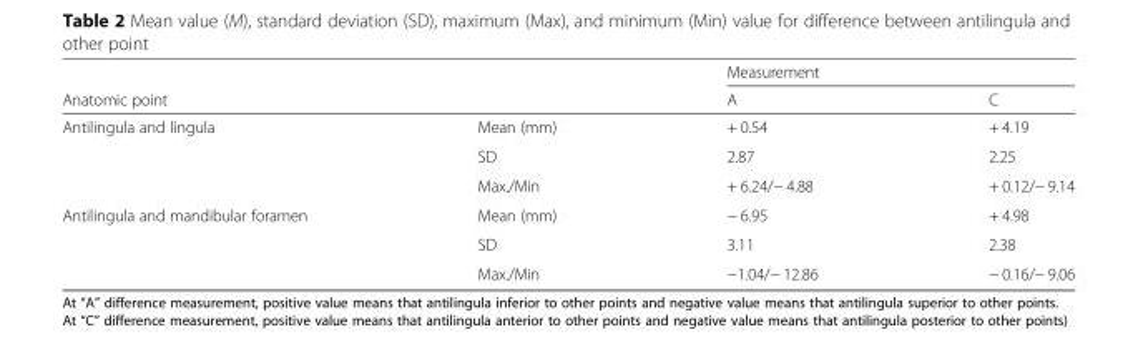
<table><thead><tr><td></td><td></td><td colspan="2">Measurement</td></tr><tr><td colspan="2">Anatomic point</td><td>A</td><td>C</td></tr></thead><tbody><tr><td rowspan="3">Antilingula and lingula</td><td>Mean (mm)</td><td>+ 0.54</td><td>+ 4.19</td></tr><tr><td>SD</td><td>2.87</td><td>2.25</td></tr><tr><td>Max./Min</td><td>+ 6.24/− 4.88</td><td>+ 0.12/− 9.14</td></tr><tr><td rowspan="3">Antilingula and mandibular foramen</td><td>Mean (mm)</td><td>− 6.95</td><td>+ 4.98</td></tr><tr><td>SD</td><td>3.11</td><td>2.38</td></tr><tr><td>Max./Min</td><td>−1.04/− 12.86</td><td>− 0.16/− 9.06</td></tr></tbody></table>